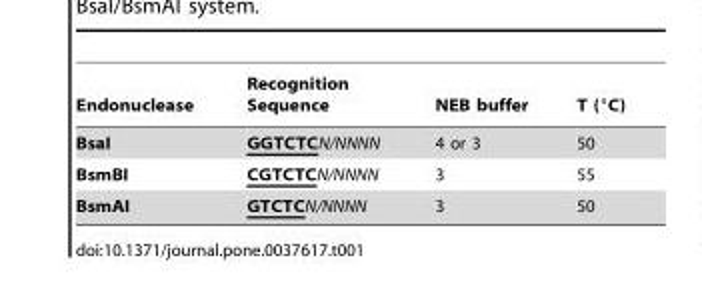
<table><thead><tr><td>Endonuclease</td><td>Recognition Sequence</td><td>NEB buffer</td><td>T (°C)</td></tr></thead><tbody><tr><td>BsaI</td><td>GGTCTCN/NNNN</td><td>4 or 3</td><td>50</td></tr><tr><td>BsmBI</td><td>CGTCTCN/NNNN</td><td>3</td><td>55</td></tr><tr><td>BsmAI</td><td>GTCTCN/NNNN</td><td>3</td><td>50</td></tr></tbody></table>